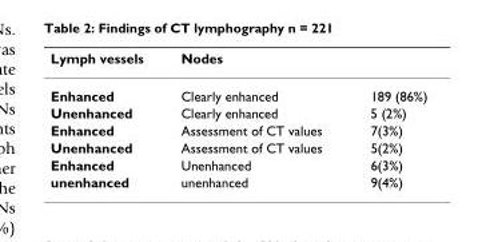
<table><thead><tr><td>Lymph vessels</td><td>Nodes</td><td></td></tr></thead><tbody><tr><td>Enhanced</td><td>Clearly enhanced</td><td>189 (86%)</td></tr><tr><td>Unenhanced</td><td>Clearly enhanced</td><td>5 (2%)</td></tr><tr><td>Enhanced</td><td>Assessment of CT values</td><td>7(3%)</td></tr><tr><td>Unenhanced</td><td>Assessment of CT values</td><td>5(2%)</td></tr><tr><td>Enhanced</td><td>Unenhanced</td><td>6(3%)</td></tr><tr><td>unenhanced</td><td>unenhanced</td><td>9(4%)</td></tr></tbody></table>